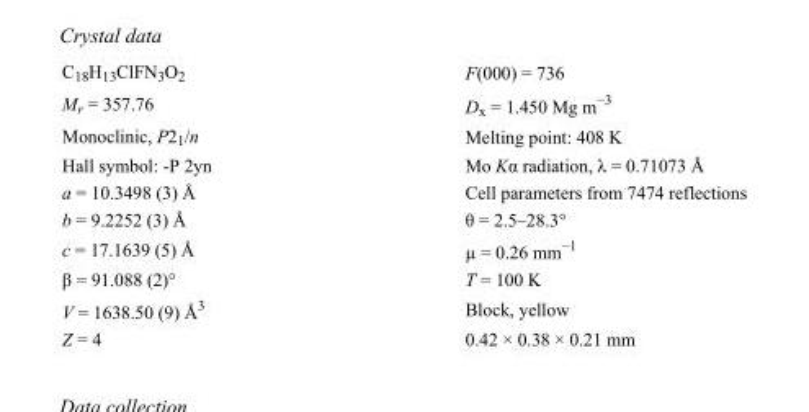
<table><tbody><tr><td>C<sub>18</sub>H<sub>13</sub>ClFN<sub>3</sub>O<sub>2</sub></td><td>F(000) = 736</td></tr><tr><td>M<sub>r</sub> = 357.76</td><td>D<sub>x</sub> = 1.450 Mg m<sup>−3</sup></td></tr><tr><td>Monoclinic, P2<sub>1</sub>/n</td><td>Melting point: 408 K</td></tr><tr><td>Hall symbol: -P 2yn</td><td>Mo Kα radiation, λ = 0.71073 Å</td></tr><tr><td>a = 10.3498 (3) Å</td><td>Cell parameters from 7474 reflections</td></tr><tr><td>b = 9.2252 (3) Å</td><td>θ = 2.5–28.3°</td></tr><tr><td>c = 17.1639 (5) Å</td><td>µ = 0.26 mm<sup>−1</sup></td></tr><tr><td>β = 91.088 (2)°</td><td>T = 100 K</td></tr><tr><td>V = 1638.50 (9) Å<sup>3</sup></td><td>Block, yellow</td></tr><tr><td>Z = 4</td><td>0.42 × 0.38 × 0.21 mm</td></tr></tbody></table>